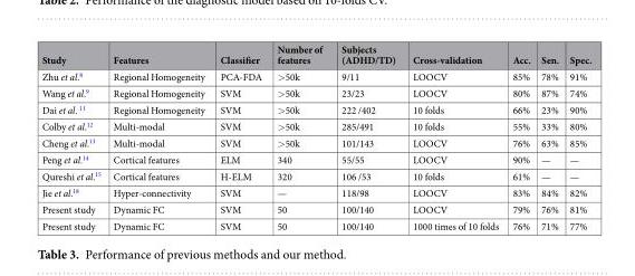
<table><thead><tr><td>Study</td><td>Features</td><td>Classifier</td><td>Number of features</td><td>Subjects (ADHD/TD)</td><td>Cross-validation</td><td>Acc.</td><td>Sen.</td><td>Spec.</td></tr></thead><tbody><tr><td>Zhu et al.<sup>8</sup></td><td>Regional Homogeneity</td><td>PCA-FDA</td><td>&gt;50k</td><td>9/11</td><td>LOOCV</td><td>85%</td><td>78%</td><td>91%</td></tr><tr><td>Wang et al.<sup>9</sup></td><td>Regional Homogeneity</td><td>SVM</td><td>&gt;50k</td><td>23/23</td><td>LOOCV</td><td>80%</td><td>87%</td><td>74%</td></tr><tr><td>Dai et al. <sup>11</sup></td><td>Regional Homogeneity</td><td>SVM</td><td>&gt;50k</td><td>222 /402</td><td>10 folds</td><td>66%</td><td>23%</td><td>90%</td></tr><tr><td>Colby et al.<sup>12</sup></td><td>Multi-modal</td><td>SVM</td><td>&gt;50k</td><td>285/491</td><td>10 folds</td><td>55%</td><td>33%</td><td>80%</td></tr><tr><td>Cheng et al.<sup>13</sup></td><td>Multi-modal</td><td>SVM</td><td>&gt;50k</td><td>101/143</td><td>LOOCV</td><td>76%</td><td>63%</td><td>85%</td></tr><tr><td>Peng et al.<sup>14</sup></td><td>Cortical features</td><td>ELM</td><td>340</td><td>55/55</td><td>LOOCV</td><td>90%</td><td>—</td><td>—</td></tr><tr><td>Qureshi et al.<sup>15</sup></td><td>Cortical features</td><td>H-ELM</td><td>320</td><td>106 /53</td><td>10 folds</td><td>61%</td><td>—</td><td>—</td></tr><tr><td>Jie et al.<sup>18</sup></td><td>Hyper-connectivity</td><td>SVM</td><td>—</td><td>118/98</td><td>LOOCV</td><td>83%</td><td>84%</td><td>82%</td></tr><tr><td>Present study</td><td>Dynamic FC</td><td>SVM</td><td>50</td><td>100/140</td><td>LOOCV</td><td>79%</td><td>76%</td><td>81%</td></tr><tr><td>Present study</td><td>Dynamic FC</td><td>SVM</td><td>50</td><td>100/140</td><td>1000 times of 10 folds</td><td>76%</td><td>71%</td><td>77%</td></tr></tbody></table>